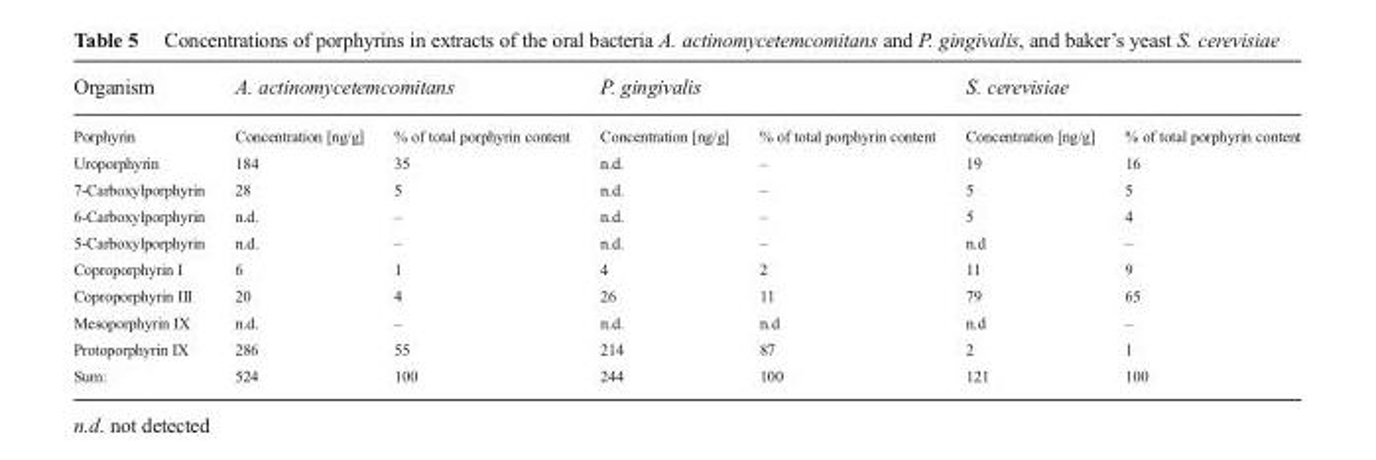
<table><thead><tr><td rowspan="2">Organism Porphyrin</td><td colspan="2">A. actinomycetemcomitans</td><td colspan="2">P. gingivalis</td><td colspan="2">S. cerevisiae</td></tr><tr><td>Concentration [ng/g]</td><td>% of total porphyrin content</td><td>Concentration [ng/g]</td><td>% of total porphyrin content</td><td>Concentration [ng/g]</td><td>% of total porphyrin content</td></tr></thead><tbody><tr><td>Uroporphyrin</td><td>184</td><td>35</td><td>n.d.</td><td>–</td><td>19</td><td>16</td></tr><tr><td>7-Carboxylporphyrin</td><td>28</td><td>5</td><td>n.d.</td><td>–</td><td>5</td><td>5</td></tr><tr><td>6-Carboxylporphyrin</td><td>n.d.</td><td>–</td><td>n.d.</td><td>–</td><td>5</td><td>4</td></tr><tr><td>5-Carboxylporphyrin</td><td>n.d.</td><td>–</td><td>n.d.</td><td>–</td><td>n.d</td><td>–</td></tr><tr><td>Coproporphyrin I</td><td>6</td><td>1</td><td>4</td><td>2</td><td>11</td><td>9</td></tr><tr><td>Coproporphyrin III</td><td>20</td><td>4</td><td>26</td><td>11</td><td>79</td><td>65</td></tr><tr><td>Mesoporphyrin IX</td><td>n.d.</td><td>–</td><td>n.d.</td><td>n.d</td><td>n.d</td><td>–</td></tr><tr><td>Protoporphyrin IX</td><td>286</td><td>55</td><td>214</td><td>87</td><td>2</td><td>1</td></tr><tr><td>Sum:</td><td>524</td><td>100</td><td>244</td><td>100</td><td>121</td><td>100</td></tr></tbody></table>